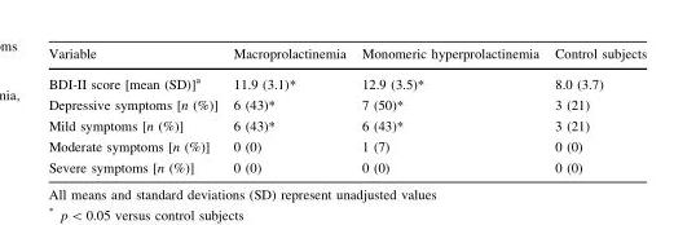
<table><thead><tr><td>Variable</td><td>Macroprolactinemia</td><td>Monomeric hyperprolactinemia</td><td>Control subjects</td></tr></thead><tbody><tr><td>BDI-II score [mean (SD)]<sup>a</sup></td><td>11.9 (3.1)*</td><td>12.9 (3.5)*</td><td>8.0 (3.7)</td></tr><tr><td>Depressive symptoms [n (%)]</td><td>6 (43)*</td><td>7 (50)*</td><td>3 (21)</td></tr><tr><td>Mild symptoms [n (%)]</td><td>6 (43)*</td><td>6 (43)*</td><td>3 (21)</td></tr><tr><td>Moderate symptoms [n (%)]</td><td>0 (0)</td><td>1 (7)</td><td>0 (0)</td></tr><tr><td>Severe symptoms [n (%)]</td><td>0 (0)</td><td>0 (0)</td><td>0 (0)</td></tr></tbody></table>